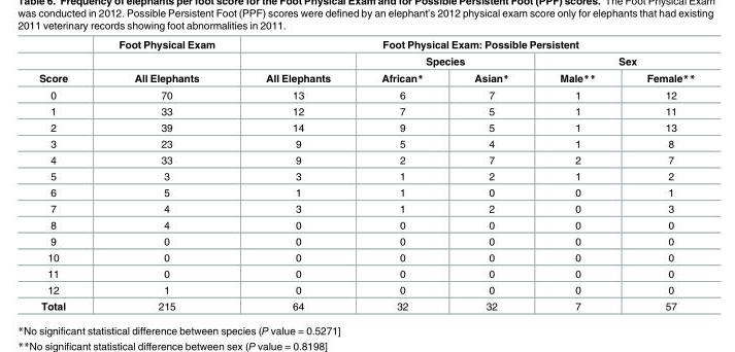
<table><thead><tr><td rowspan="3">Score</td><td rowspan="3">Foot Physical Exam All Elephants</td><td colspan="5">Foot Physical Exam: Possible Persistent</td></tr><tr><td rowspan="2">All Elephants</td><td colspan="2">Species</td><td colspan="2">Sex</td></tr><tr><td>African*</td><td>Asian*</td><td>Male**</td><td>Female**</td></tr></thead><tbody><tr><td>0</td><td>70</td><td>13</td><td>6</td><td>7</td><td>1</td><td>12</td></tr><tr><td>1</td><td>33</td><td>12</td><td>7</td><td>5</td><td>1</td><td>11</td></tr><tr><td>2</td><td>39</td><td>14</td><td>9</td><td>5</td><td>1</td><td>13</td></tr><tr><td>3</td><td>23</td><td>9</td><td>5</td><td>4</td><td>1</td><td>8</td></tr><tr><td>4</td><td>33</td><td>9</td><td>2</td><td>7</td><td>2</td><td>7</td></tr><tr><td>5</td><td>3</td><td>3</td><td>1</td><td>2</td><td>1</td><td>2</td></tr><tr><td>6</td><td>5</td><td>1</td><td>1</td><td>0</td><td>0</td><td>1</td></tr><tr><td>7</td><td>4</td><td>3</td><td>1</td><td>2</td><td>0</td><td>3</td></tr><tr><td>8</td><td>4</td><td>0</td><td>0</td><td>0</td><td>0</td><td>0</td></tr><tr><td>9</td><td>0</td><td>0</td><td>0</td><td>0</td><td>0</td><td>0</td></tr><tr><td>10</td><td>0</td><td>0</td><td>0</td><td>0</td><td>0</td><td>0</td></tr><tr><td>11</td><td>0</td><td>0</td><td>0</td><td>0</td><td>0</td><td>0</td></tr><tr><td>12</td><td>1</td><td>0</td><td>0</td><td>0</td><td>0</td><td>0</td></tr><tr><td>Total</td><td>215</td><td>64</td><td>32</td><td>32</td><td>7</td><td>57</td></tr></tbody></table>